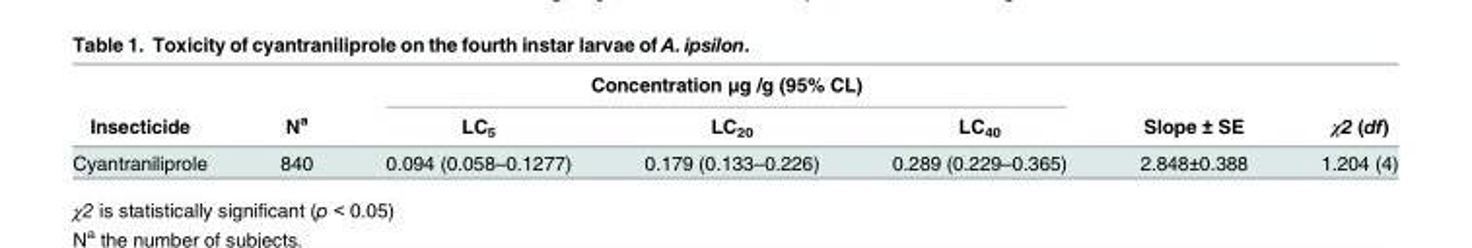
<table><thead><tr><td rowspan="2">Insecticide</td><td rowspan="2">N<sup>a</sup></td><td colspan="3">Concentration μg /g (95% CL)</td><td rowspan="2">Slope ± SE</td><td rowspan="2">χ2 (df)</td></tr><tr><td>LC<sub>5</sub></td><td>LC<sub>20</sub></td><td>LC<sub>40</sub></td></tr></thead><tbody><tr><td>Cyantraniliprole</td><td>840</td><td>0.094 (0.058–0.1277)</td><td>0.179 (0.133–0.226)</td><td>0.289 (0.229–0.365)</td><td>2.848±0.388</td><td>1.204 (4)</td></tr></tbody></table>